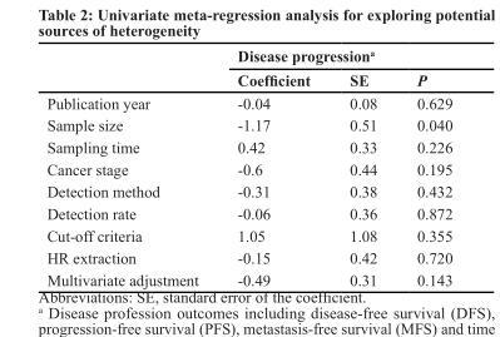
<table><thead><tr><td rowspan="2"></td><td colspan="3">Disease progression<sup>a</sup></td></tr><tr><td>Coefficient</td><td>sE</td><td>P</td></tr></thead><tbody><tr><td>Publication year</td><td>-0.04</td><td>0.08</td><td>0.629</td></tr><tr><td>Sample size</td><td>-1.17</td><td>0.51</td><td>0.040</td></tr><tr><td>Sampling time</td><td>0.42</td><td>0.33</td><td>0.226</td></tr><tr><td>Cancer stage</td><td>-0.6</td><td>0.44</td><td>0.195</td></tr><tr><td>Detection method</td><td>-0.31</td><td>0.38</td><td>0.432</td></tr><tr><td>Detection rate</td><td>-0.06</td><td>0.36</td><td>0.872</td></tr><tr><td>Cut-off criteria</td><td>1.05</td><td>1.08</td><td>0.355</td></tr><tr><td>HR extraction</td><td>-0.15</td><td>0.42</td><td>0.720</td></tr><tr><td>Multivariate adjustment</td><td>-0.49</td><td>0.31</td><td>0.143</td></tr></tbody></table>